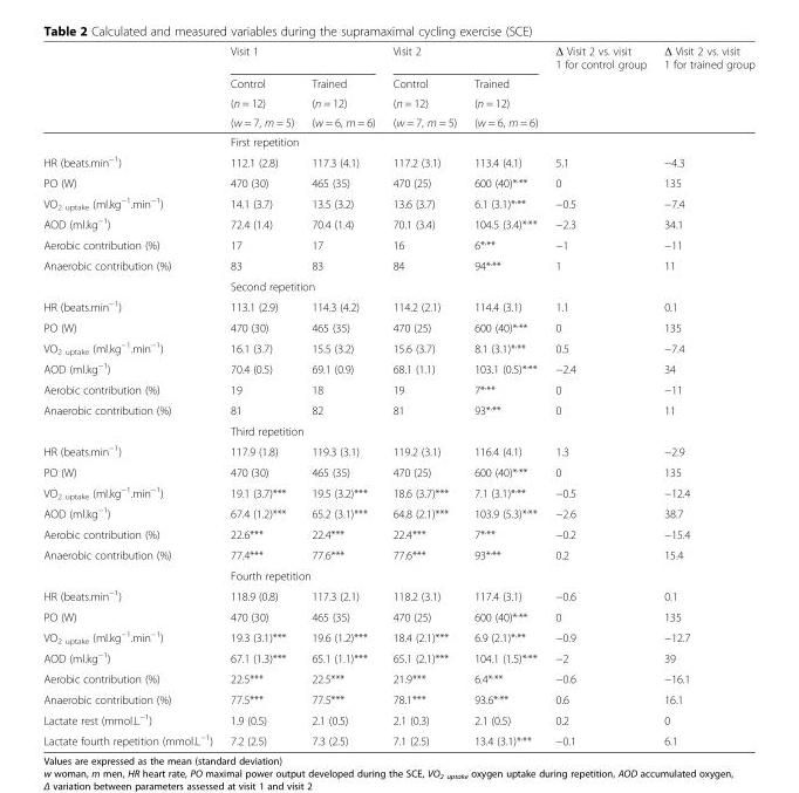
<table><thead><tr><td rowspan="4"></td><td colspan="2">Visit 1</td><td colspan="2">Visit 2</td><td rowspan="4">Δ Visit 2 vs. visit 1 for control group</td><td rowspan="4">Δ Visit 2 vs. visit 1 for trained group</td></tr><tr><td rowspan="3">Control (n = 12) (w = 7, m = 5)</td><td rowspan="3">Trained (n = 12) (w = 6, m = 6)</td><td rowspan="3">Control (n = 12) (w = 7, m = 5)</td><td rowspan="3">Trained (n = 12) (w = 6, m = 6)</td></tr><tr></tr><tr></tr></thead><tbody><tr><td></td><td colspan="6">First repetition</td></tr><tr><td>HR (beats.min<sup>−1</sup>)</td><td>112.1 (2.8)</td><td>117.3 (4.1)</td><td>117.2 (3.1)</td><td>113.4 (4.1)</td><td>5.1</td><td>−4.3</td></tr><tr><td>PO (W)</td><td>470 (30)</td><td>465 (35)</td><td>470 (25)</td><td>600 (40)*<sup>,</sup>**</td><td>0</td><td>135</td></tr><tr><td>VO<sub>2 uptake</sub> (ml.kg<sup>−1</sup>.min<sup>−1</sup>)</td><td>14.1 (3.7)</td><td>13.5 (3.2)</td><td>13.6 (3.7)</td><td>6.1 (3.1)*<sup>,</sup>**</td><td>−0.5</td><td>−7.4</td></tr><tr><td>AOD (ml.kg<sup>−1</sup>)</td><td>72.4 (1.4)</td><td>70.4 (1.4)</td><td>70.1 (3.4)</td><td>104.5 (3.4)*<sup>,</sup>**</td><td>−2.3</td><td>34.1</td></tr><tr><td>Aerobic contribution (%)</td><td>17</td><td>17</td><td>16</td><td>6*<sup>,</sup>**</td><td>−1</td><td>−11</td></tr><tr><td rowspan="2">Anaerobic contribution (%)</td><td>83</td><td>83</td><td>84</td><td>94*<sup>,</sup>**</td><td>1</td><td>11</td></tr><tr><td colspan="6">Second repetition</td></tr><tr><td>HR (beats.min<sup>−1</sup>)</td><td>113.1 (2.9)</td><td>114.3 (4.2)</td><td>114.2 (2.1)</td><td>114.4 (3.1)</td><td>1.1</td><td>0.1</td></tr><tr><td>PO (W)</td><td>470 (30)</td><td>465 (35)</td><td>470 (25)</td><td>600 (40)*<sup>,</sup>**</td><td>0</td><td>135</td></tr><tr><td>VO<sub>2 uptake</sub> (ml.kg<sup>−1</sup>.min<sup>−1</sup>)</td><td>16.1 (3.7)</td><td>15.5 (3.2)</td><td>15.6 (3.7)</td><td>8.1 (3.1)*<sup>,</sup>**</td><td>0.5</td><td>−7.4</td></tr><tr><td>AOD (ml.kg<sup>−1</sup>)</td><td>70.4 (0.5)</td><td>69.1 (0.9)</td><td>68.1 (1.1)</td><td>103.1 (0.5)*<sup>,</sup>**</td><td>−2.4</td><td>34</td></tr><tr><td>Aerobic contribution (%)</td><td>19</td><td>18</td><td>19</td><td>7*<sup>,</sup>**</td><td>0</td><td>−11</td></tr><tr><td rowspan="2">Anaerobic contribution (%)</td><td>81</td><td>82</td><td>81</td><td>93*<sup>,</sup>**</td><td>0</td><td>11</td></tr><tr><td colspan="6">Third repetition</td></tr><tr><td>HR (beats.min<sup>−1</sup>)</td><td>117.9 (1.8)</td><td>119.3 (3.1)</td><td>119.2 (3.1)</td><td>116.4 (4.1)</td><td>1.3</td><td>−2.9</td></tr><tr><td>PO (W)</td><td>470 (30)</td><td>465 (35)</td><td>470 (25)</td><td>600 (40)*<sup>,</sup>**</td><td>0</td><td>135</td></tr><tr><td>VO<sub>2 uptake</sub> (ml.kg<sup>−1</sup>.min<sup>−1</sup>)</td><td>19.1 (3.7)***</td><td>19.5 (3.2)***</td><td>18.6 (3.7)***</td><td>7.1 (3.1)*<sup>,</sup>**</td><td>−0.5</td><td>−12.4</td></tr><tr><td>AOD (ml.kg<sup>−1</sup>)</td><td>67.4 (1.2)***</td><td>65.2 (3.1)***</td><td>64.8 (2.1)***</td><td>103.9 (5.3)*<sup>,</sup>**</td><td>−2.6</td><td>38.7</td></tr><tr><td>Aerobic contribution (%)</td><td>22.6***</td><td>22.4***</td><td>22.4***</td><td>7*<sup>,</sup>**</td><td>−0.2</td><td>−15.4</td></tr><tr><td rowspan="2">Anaerobic contribution (%)</td><td>77.4***</td><td>77.6***</td><td>77.6***</td><td>93*<sup>,</sup>**</td><td>0.2</td><td>15.4</td></tr><tr><td colspan="6">Fourth repetition</td></tr><tr><td>HR (beats.min<sup>−1</sup>)</td><td>118.9 (0.8)</td><td>117.3 (2.1)</td><td>118.2 (3.1)</td><td>117.4 (3.1)</td><td>−0.6</td><td>0.1</td></tr><tr><td>PO (W)</td><td>470 (30)</td><td>465 (35)</td><td>470 (25)</td><td>600 (40)*<sup>,</sup>**</td><td>0</td><td>135</td></tr><tr><td>VO<sub>2 uptake</sub> (ml.kg<sup>−1</sup>.min<sup>−1</sup>)</td><td>19.3 (3.1)***</td><td>19.6 (1.2)***</td><td>18.4 (2.1)***</td><td>6.9 (2.1)*<sup>,</sup>**</td><td>−0.9</td><td>−12.7</td></tr><tr><td>AOD (ml.kg<sup>−1</sup>)</td><td>67.1 (1.3)***</td><td>65.1 (1.1)***</td><td>65.1 (2.1)***</td><td>104.1 (1.5)*<sup>,</sup>**</td><td>−2</td><td>39</td></tr><tr><td>Aerobic contribution (%)</td><td>22.5***</td><td>22.5***</td><td>21.9***</td><td>6.4*<sup>,</sup>**</td><td>−0.6</td><td>−16.1</td></tr><tr><td>Anaerobic contribution (%)</td><td>77.5***</td><td>77.5***</td><td>78.1***</td><td>93.6*<sup>,</sup>**</td><td>0.6</td><td>16.1</td></tr><tr><td>Lactate rest (mmol.L<sup>−1</sup>)</td><td>1.9 (0.5)</td><td>2.1 (0.5)</td><td>2.1 (0.3)</td><td>2.1 (0.5)</td><td>0.2</td><td>0</td></tr><tr><td>Lactate fourth repetition (mmol.L<sup>−1</sup>)</td><td>7.2 (2.5)</td><td>7.3 (2.5)</td><td>7.1 (2.5)</td><td>13.4 (3.1)*<sup>,</sup>**</td><td>−0.1</td><td>6.1</td></tr></tbody></table>